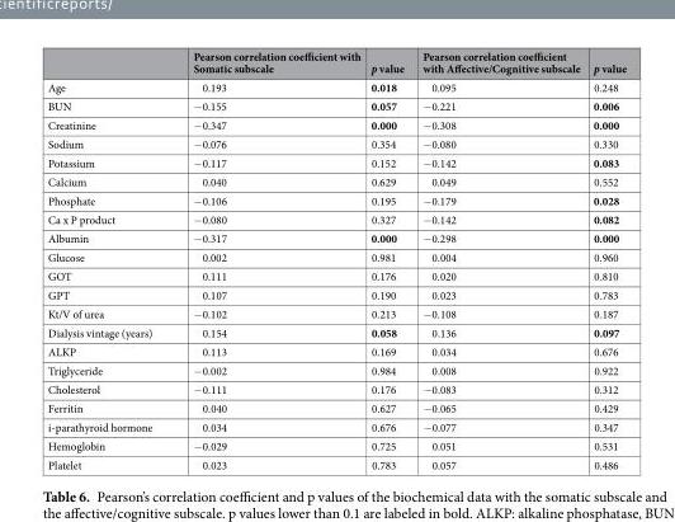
<table><thead><tr><td></td><td>Pearson correlation coefficient with Somatic subscale</td><td>p value</td><td>Pearson correlation coefficient with Affective/Cognitive subscale</td><td>p value</td></tr></thead><tbody><tr><td>Age</td><td>0.193</td><td>0.018</td><td>0.095</td><td>0.248</td></tr><tr><td>BUN</td><td>−0.155</td><td>0.057</td><td>−0.221</td><td>0.006</td></tr><tr><td>Creatinine</td><td>−0.347</td><td>0.000</td><td>−0.308</td><td>0.000</td></tr><tr><td>Sodium</td><td>−0.076</td><td>0.354</td><td>−0.080</td><td>0.330</td></tr><tr><td>Potassium</td><td>−0.117</td><td>0.152</td><td>−0.142</td><td>0.083</td></tr><tr><td>Calcium</td><td>0.040</td><td>0.629</td><td>0.049</td><td>0.552</td></tr><tr><td>Phosphate</td><td>−0.106</td><td>0.195</td><td>−0.179</td><td>0.028</td></tr><tr><td>Ca x P product</td><td>−0.080</td><td>0.327</td><td>−0.142</td><td>0.082</td></tr><tr><td>Albumin</td><td>−0.317</td><td>0.000</td><td>−0.298</td><td>0.000</td></tr><tr><td>Glucose</td><td>0.002</td><td>0.981</td><td>0.004</td><td>0.960</td></tr><tr><td>GOT</td><td>0.111</td><td>0.176</td><td>0.020</td><td>0.810</td></tr><tr><td>GPT</td><td>0.107</td><td>0.190</td><td>0.023</td><td>0.783</td></tr><tr><td>Kt/V of urea</td><td>−0.102</td><td>0.213</td><td>−0.108</td><td>0.187</td></tr><tr><td>Dialysis vintage (years)</td><td>0.154</td><td>0.058</td><td>0.136</td><td>0.097</td></tr><tr><td>ALKP</td><td>0.113</td><td>0.169</td><td>0.034</td><td>0.676</td></tr><tr><td>Triglyceride</td><td>−0.002</td><td>0.984</td><td>0.008</td><td>0.922</td></tr><tr><td>Cholesterol</td><td>−0.111</td><td>0.176</td><td>−0.083</td><td>0.312</td></tr><tr><td>Ferritin</td><td>0.040</td><td>0.627</td><td>−0.065</td><td>0.429</td></tr><tr><td>i-parathyroid hormone</td><td>0.034</td><td>0.676</td><td>−0.077</td><td>0.347</td></tr><tr><td>Hemoglobin</td><td>−0.029</td><td>0.725</td><td>0.051</td><td>0.531</td></tr><tr><td>Platelet</td><td>0.023</td><td>0.783</td><td>0.057</td><td>0.486</td></tr></tbody></table>